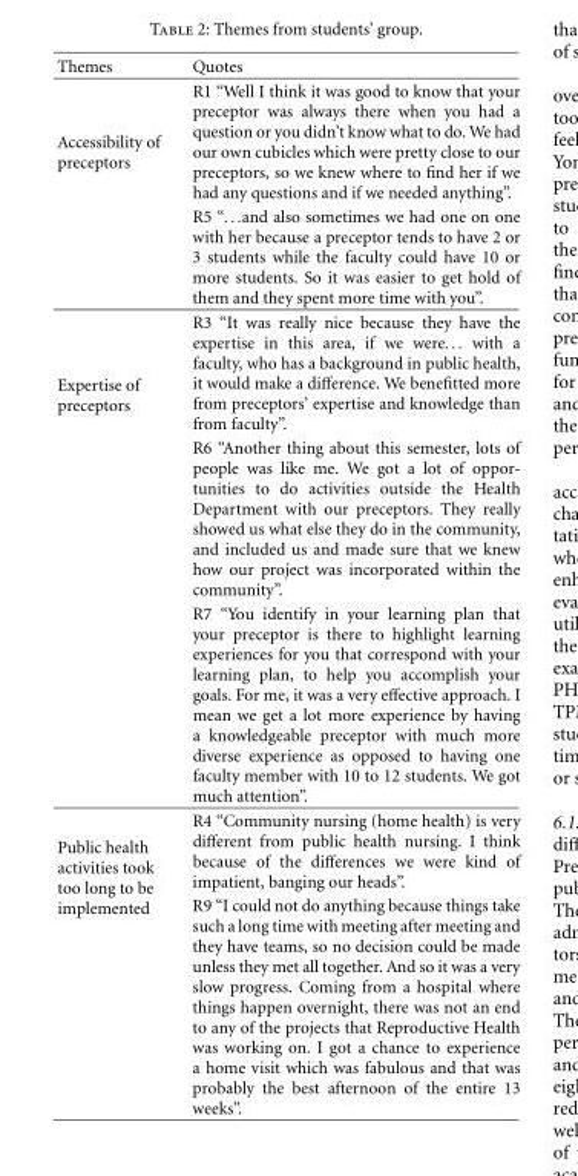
<table><thead><tr><td>Themes</td><td>Quotes</td></tr></thead><tbody><tr><td rowspan="2">Accessibility of preceptors</td><td>R1 “Well I think it was good to know that your preceptor was always there when you had a question or you didn’t know what to do. We had our own cubicles which were pretty close to our preceptors, so we knew where to find her if we had any questions and if we needed anything”.</td></tr><tr><td>R5 “...and also sometimes we had one on one with her because a preceptor tends to have 2 or 3 students while the faculty could have 10 or more students. So it was easier to get hold of them and they spent more time with you”.</td></tr><tr><td rowspan="3">Expertise of preceptors</td><td>R3 “It was really nice because they have the expertise in this area, if we were... with a faculty, who has a background in public health, it would make a difference. We benefitted more from preceptors’ expertise and knowledge than from faculty”.</td></tr><tr><td>R6 “Another thing about this semester, lots of people was like me. We got a lot of oppor- tunities to do activities outside the Health Department with our preceptors. They really showed us what else they do in the community, and included us and made sure that we knew how our project was incorporated within the community”.</td></tr><tr><td>R7 “You identify in your learning plan that your preceptor is there to highlight learning experiences for you that correspond with your learning plan, to help you accomplish your goals. For me, it was a very effective approach. I mean we get a lot more experience by having a knowledgeable preceptor with much more diverse experience as opposed to having one faculty member with 10 to 12 students. We got much attention”.</td></tr><tr><td rowspan="2">Public health activities took too long to be implemented</td><td>R4 “Community nursing (home health) is very different from public health nursing. I think because of the differences we were kind of impatient, banging our heads”.</td></tr><tr><td>R9 “I could not do anything because things take such a long time with meeting after meeting and they have teams, so no decision could be made unless they met all together. And so it was a very slow progress. Coming from a hospital where things happen overnight, there was not an end to any of the projects that Reproductive Health was working on. I got a chance to experience a home visit which was fabulous and that was probably the best afternoon of the entire 13 weeks”.</td></tr></tbody></table>